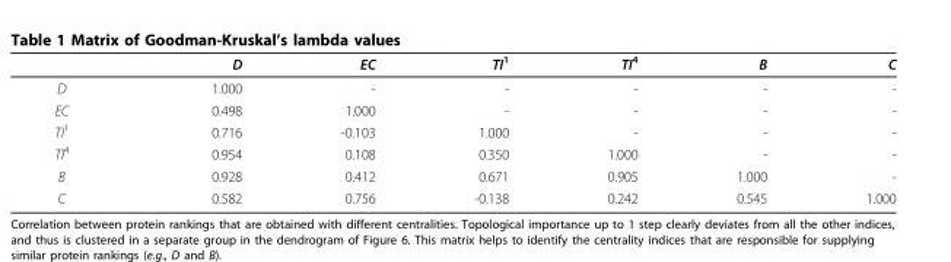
<table><thead><tr><td></td><td>D</td><td>EC</td><td>TI<sup>1</sup></td><td>TI<sup>4</sup></td><td>B</td><td>C</td></tr></thead><tbody><tr><td>D</td><td>1.000</td><td>-</td><td>-</td><td>-</td><td>-</td><td>-</td></tr><tr><td>EC</td><td>0.498</td><td>1.000</td><td>-</td><td>-</td><td>-</td><td>-</td></tr><tr><td>TI<sup>1</sup></td><td>0.716</td><td>-0.103</td><td>1.000</td><td>-</td><td>-</td><td>-</td></tr><tr><td>TI<sup>4</sup></td><td>0.954</td><td>0.108</td><td>0.350</td><td>1.000</td><td>-</td><td>-</td></tr><tr><td>B</td><td>0.928</td><td>0.412</td><td>0.671</td><td>0.905</td><td>1.000</td><td>-</td></tr><tr><td>C</td><td>0.582</td><td>0.756</td><td>-0.138</td><td>0.242</td><td>0.545</td><td>1.000</td></tr></tbody></table>